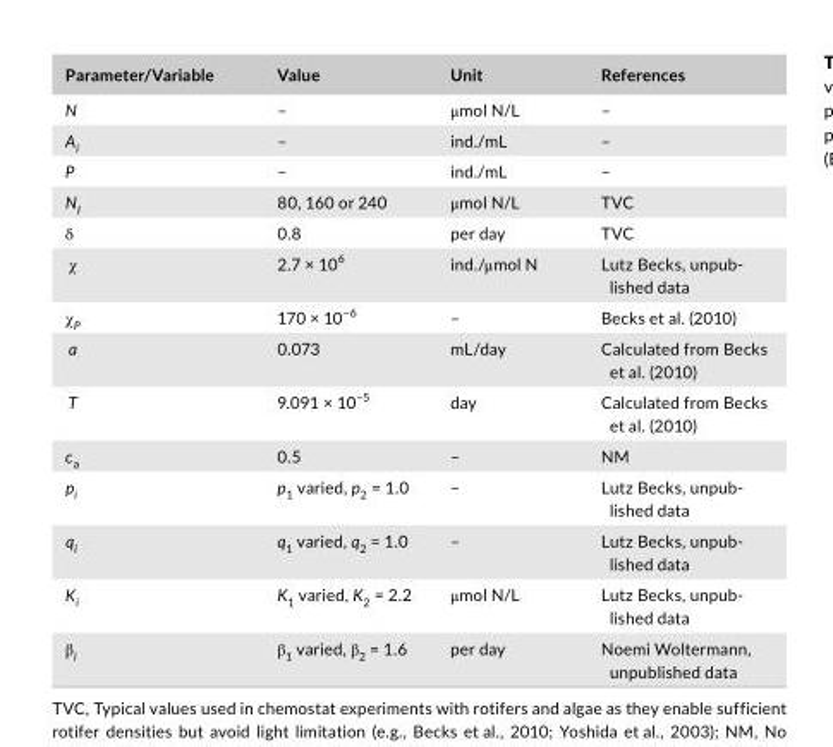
<table><thead><tr><td>Parameter/Variable</td><td>Value</td><td>Unit</td><td>References</td></tr></thead><tbody><tr><td>N</td><td>–</td><td>μmol N/L</td><td>–</td></tr><tr><td>A<sub>i</sub></td><td>–</td><td>ind./mL</td><td>–</td></tr><tr><td>P</td><td>–</td><td>ind./mL</td><td>–</td></tr><tr><td>N<sub>I</sub></td><td>80, 160 or 240</td><td>μmol N/L</td><td>TVC</td></tr><tr><td>δ</td><td>0.8</td><td>per day</td><td>TVC</td></tr><tr><td>χ</td><td>2.7 × 10<sup>6</sup></td><td>ind./μmol N</td><td>Lutz Becks, unpub- lished data</td></tr><tr><td>χ<sub>P</sub></td><td>170 × 10<sup>−6</sup></td><td>–</td><td>Becks et al. (2010)</td></tr><tr><td>a</td><td>0.073</td><td>mL/day</td><td>Calculated from Becks et al. (2010)</td></tr><tr><td>T</td><td>9.091 × 10<sup>−5</sup></td><td>day</td><td>Calculated from Becks et al. (2010)</td></tr><tr><td>c<sub>a</sub></td><td>0.5</td><td>–</td><td>NM</td></tr><tr><td>p<sub>i</sub></td><td>p<sub>1</sub> varied, p<sub>2</sub> = 1.0</td><td>–</td><td>Lutz Becks, unpub- lished data</td></tr><tr><td>q<sub>i</sub></td><td>q<sub>1</sub> varied, q<sub>2</sub> = 1.0</td><td>–</td><td>Lutz Becks, unpub- lished data</td></tr><tr><td>K<sub>i</sub></td><td>K<sub>1</sub> varied, K<sub>2</sub> = 2.2</td><td>μmol N/L</td><td>Lutz Becks, unpub- lished data</td></tr><tr><td>β<sub>i</sub></td><td>β<sub>1</sub> varied, β<sub>2</sub> = 1.6</td><td>per day</td><td>Noemi Woltermann, unpublished data</td></tr></tbody></table>